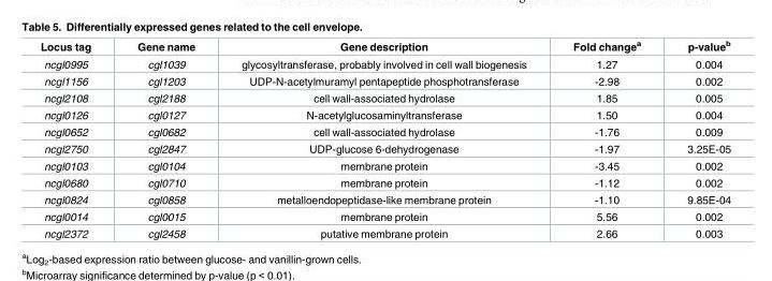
<table><thead><tr><td>Locus tag</td><td>Gene name</td><td>Gene description</td><td>Fold change<sup>a</sup></td><td>p-value<sup>b</sup></td></tr></thead><tbody><tr><td>ncgl0995</td><td>cgl1039</td><td>glycosyltransferase, probably involved in cell wall biogenesis</td><td>1.27</td><td>0.004</td></tr><tr><td>ncgl1156</td><td>cgl1203</td><td>UDP-N-acetylmuramyl pentapeptide phosphotransferase</td><td>-2.98</td><td>0.002</td></tr><tr><td>ncgl2108</td><td>cgl2188</td><td>cell wall-associated hydrolase</td><td>1.85</td><td>0.005</td></tr><tr><td>ncgl0126</td><td>cgl0127</td><td>N-acetylglucosaminyltransferase</td><td>1.50</td><td>0.004</td></tr><tr><td>ncgl0652</td><td>cgl0682</td><td>cell wall-associated hydrolase</td><td>-1.76</td><td>0.009</td></tr><tr><td>ncgl2750</td><td>cgl2847</td><td>UDP-glucose 6-dehydrogenase</td><td>-1.97</td><td>3.25E-05</td></tr><tr><td>ncgl0103</td><td>cgl0104</td><td>membrane protein</td><td>-3.45</td><td>0.002</td></tr><tr><td>ncgl0680</td><td>cgl0710</td><td>membrane protein</td><td>-1.12</td><td>0.002</td></tr><tr><td>ncgl0824</td><td>cgl0858</td><td>metalloendopeptidase-like membrane protein</td><td>-1.10</td><td>9.85E-04</td></tr><tr><td>ncgl0014</td><td>cgl0015</td><td>membrane protein</td><td>5.56</td><td>0.002</td></tr><tr><td>ncgl2372</td><td>cgl2458</td><td>putative membrane protein</td><td>2.66</td><td>0.003</td></tr></tbody></table>